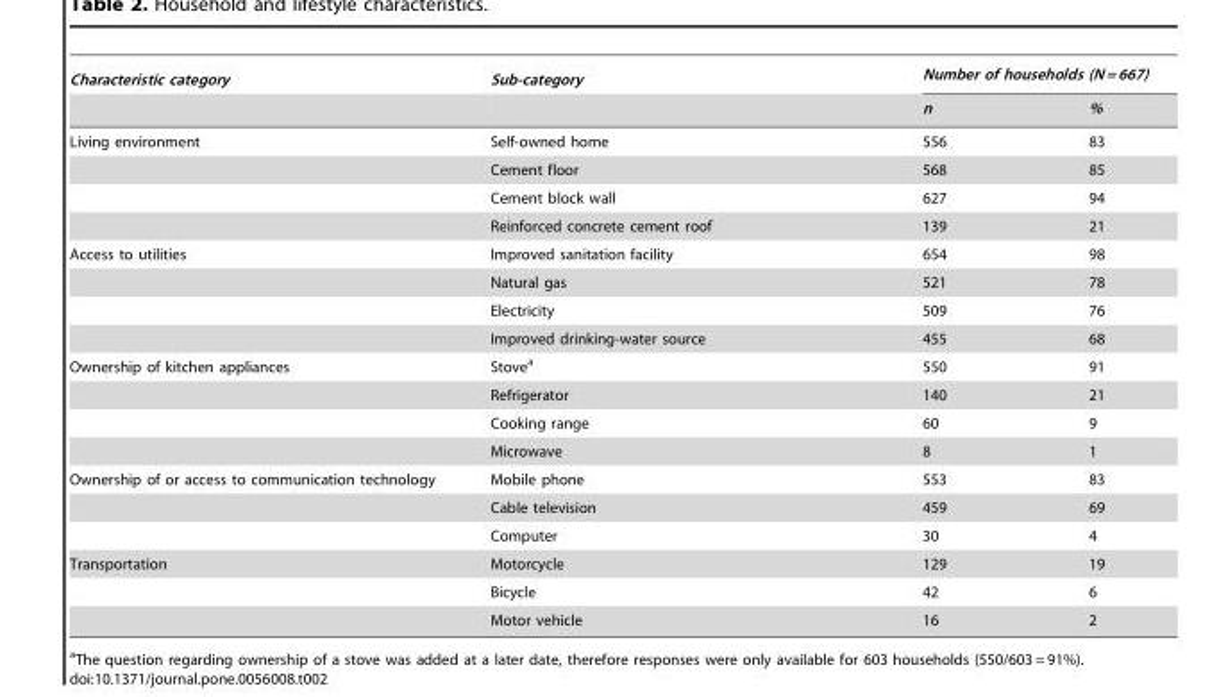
<table><thead><tr><td rowspan="2">Characteristic category</td><td rowspan="2">Sub-category</td><td colspan="2">Number of households (N = 667)</td></tr><tr><td>n</td><td>%</td></tr></thead><tbody><tr><td rowspan="4">Living environment</td><td>Self-owned home</td><td>556</td><td>83</td></tr><tr><td>Cement floor</td><td>568</td><td>85</td></tr><tr><td>Cement block wall</td><td>627</td><td>94</td></tr><tr><td>Reinforced concrete cement roof</td><td>139</td><td>21</td></tr><tr><td rowspan="4">Access to utilities</td><td>Improved sanitation facility</td><td>654</td><td>98</td></tr><tr><td>Natural gas</td><td>521</td><td>78</td></tr><tr><td>Electricity</td><td>509</td><td>76</td></tr><tr><td>Improved drinking-water source</td><td>455</td><td>68</td></tr><tr><td rowspan="4">Ownership of kitchen appliances</td><td>Stove<sup>a</sup></td><td>550</td><td>91</td></tr><tr><td>Refrigerator</td><td>140</td><td>21</td></tr><tr><td>Cooking range</td><td>60</td><td>9</td></tr><tr><td>Microwave</td><td>8</td><td>1</td></tr><tr><td rowspan="3">Ownership of or access to communication technology</td><td>Mobile phone</td><td>553</td><td>83</td></tr><tr><td>Cable television</td><td>459</td><td>69</td></tr><tr><td>Computer</td><td>30</td><td>4</td></tr><tr><td rowspan="3">Transportation</td><td>Motorcycle</td><td>129</td><td>19</td></tr><tr><td>Bicycle</td><td>42</td><td>6</td></tr><tr><td>Motor vehicle</td><td>16</td><td>2</td></tr></tbody></table>